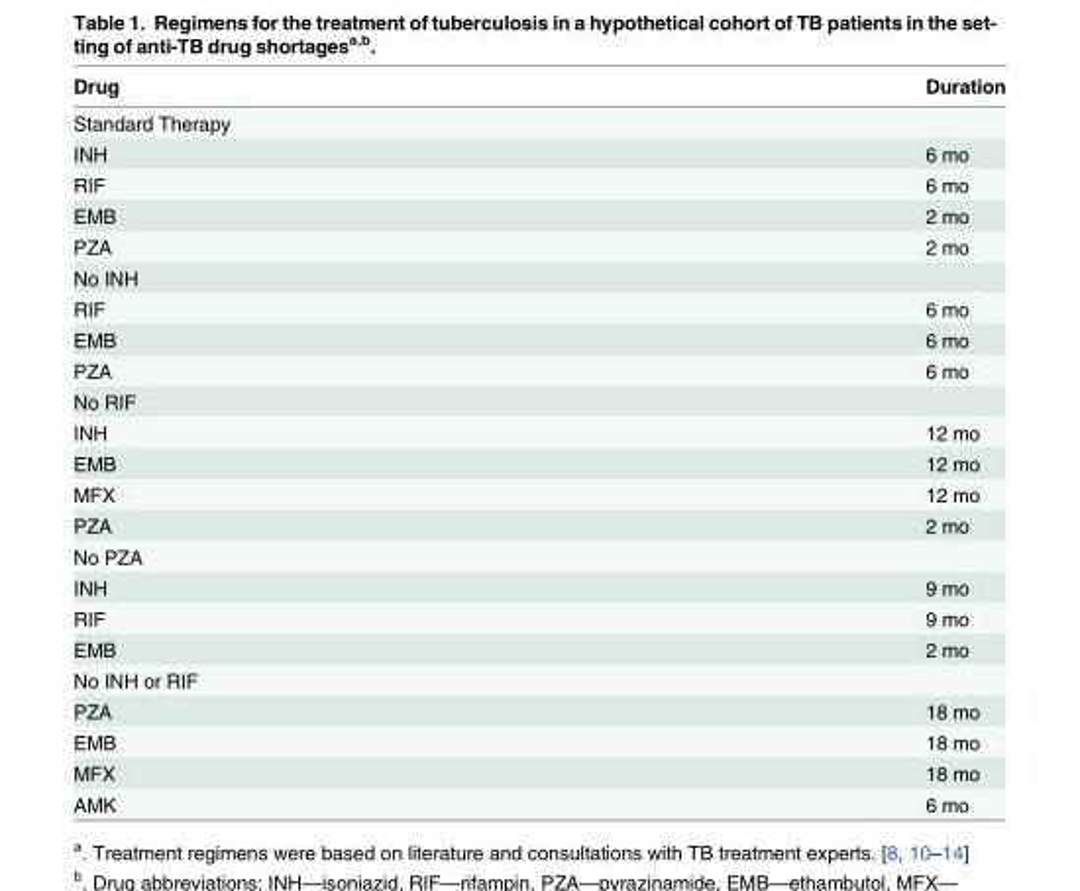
<table><thead><tr><td>Drug</td><td>Duration</td></tr></thead><tbody><tr><td colspan="2">Standard Therapy</td></tr><tr><td>INH</td><td>6 mo</td></tr><tr><td>RIF</td><td>6 mo</td></tr><tr><td>EMB</td><td>2 mo</td></tr><tr><td>PZA</td><td>2 mo</td></tr><tr><td colspan="2">No INH</td></tr><tr><td>RIF</td><td>6 mo</td></tr><tr><td>EMB</td><td>6 mo</td></tr><tr><td>PZA</td><td>6 mo</td></tr><tr><td colspan="2">No RIF</td></tr><tr><td>INH</td><td>12 mo</td></tr><tr><td>EMB</td><td>12 mo</td></tr><tr><td>MFX</td><td>12 mo</td></tr><tr><td>PZA</td><td>2 mo</td></tr><tr><td colspan="2">No PZA</td></tr><tr><td>INH</td><td>9 mo</td></tr><tr><td>RIF</td><td>9 mo</td></tr><tr><td>EMB</td><td>2 mo</td></tr><tr><td colspan="2">No INH or RIF</td></tr><tr><td>PZA</td><td>18 mo</td></tr><tr><td>EMB</td><td>18 mo</td></tr><tr><td>MFX</td><td>18 mo</td></tr><tr><td>AMK</td><td>6 mo</td></tr></tbody></table>